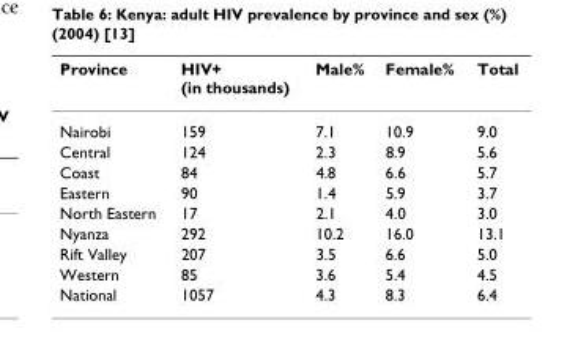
<table><thead><tr><td>Province</td><td>HIV+ (in thousands)</td><td>Male%</td><td>Female%</td><td>Total</td></tr></thead><tbody><tr><td>Nairobi</td><td>159</td><td>7.1</td><td>10.9</td><td>9.0</td></tr><tr><td>Central</td><td>124</td><td>2.3</td><td>8.9</td><td>5.6</td></tr><tr><td>Coast</td><td>84</td><td>4.8</td><td>6.6</td><td>5.7</td></tr><tr><td>Eastern</td><td>90</td><td>1.4</td><td>5.9</td><td>3.7</td></tr><tr><td>North Eastern</td><td>17</td><td>2.1</td><td>4.0</td><td>3.0</td></tr><tr><td>Nyanza</td><td>292</td><td>10.2</td><td>16.0</td><td>13.1</td></tr><tr><td>Rift Valley</td><td>207</td><td>3.5</td><td>6.6</td><td>5.0</td></tr><tr><td>Western</td><td>85</td><td>3.6</td><td>5.4</td><td>4.5</td></tr><tr><td>National</td><td>1057</td><td>4.3</td><td>8.3</td><td>6.4</td></tr></tbody></table>